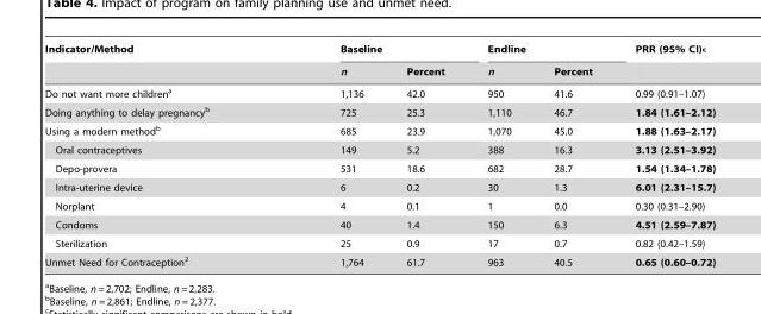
<table><thead><tr><td rowspan="2">Indicator/Method</td><td colspan="2">Baseline</td><td colspan="2">Endline</td><td rowspan="2">PRR (95% CI)<sup>c</sup></td></tr><tr><td>n</td><td>Percent</td><td>n</td><td>Percent</td></tr></thead><tbody><tr><td>Do not want more children<sup>a</sup></td><td>1,136</td><td>42.0</td><td>950</td><td>41.6</td><td>0.99 (0.91–1.07)</td></tr><tr><td>Doing anything to delay pregnancy<sup>b</sup></td><td>725</td><td>25.3</td><td>1,110</td><td>46.7</td><td>1.84 (1.61–2.12)</td></tr><tr><td>Using a modern method<sup>b</sup></td><td>685</td><td>23.9</td><td>1,070</td><td>45.0</td><td>1.88 (1.63–2.17)</td></tr><tr><td>Oral contraceptives</td><td>149</td><td>5.2</td><td>388</td><td>16.3</td><td>3.13 (2.51–3.92)</td></tr><tr><td>Depo-provera</td><td>531</td><td>18.6</td><td>682</td><td>28.7</td><td>1.54 (1.34–1.78)</td></tr><tr><td>Intra-uterine device</td><td>6</td><td>0.2</td><td>30</td><td>1.3</td><td>6.01 (2.31–15.7)</td></tr><tr><td>Norplant</td><td>4</td><td>0.1</td><td>1</td><td>0.0</td><td>0.30 (0.31–2.90)</td></tr><tr><td>Condoms</td><td>40</td><td>1.4</td><td>150</td><td>6.3</td><td>4.51 (2.59–7.87)</td></tr><tr><td>Sterilization</td><td>25</td><td>0.9</td><td>17</td><td>0.7</td><td>0.82 (0.42–1.59)</td></tr><tr><td>Unmet Need for Contraception<sup>2</sup></td><td>1,764</td><td>61.7</td><td>963</td><td>40.5</td><td>0.65 (0.60–0.72)</td></tr></tbody></table>